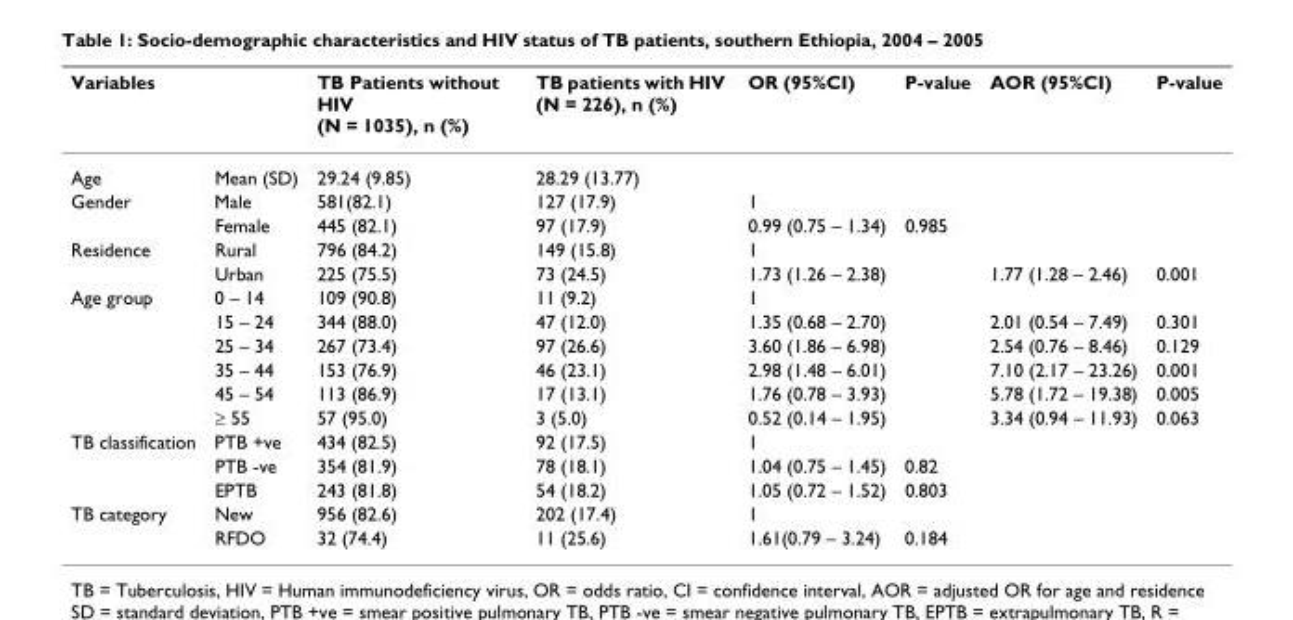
<table><thead><tr><td>Variables</td><td></td><td>TB Patients without HIV (N = 1035), n (%)</td><td>TB patients with HIV (N = 226), n (%)</td><td>OR (95%CI)</td><td>P-value</td><td>AOR (95%CI)</td><td>P-value</td></tr></thead><tbody><tr><td>Age</td><td>Mean (SD)</td><td>29.24 (9.85)</td><td>28.29 (13.77)</td><td></td><td></td><td></td><td></td></tr><tr><td rowspan="2">Gender</td><td>Male</td><td>581(82.1)</td><td>127 (17.9)</td><td>1</td><td></td><td></td><td></td></tr><tr><td>Female</td><td>445 (82.1)</td><td>97 (17.9)</td><td>0.99 (0.75 – 1.34)</td><td>0.985</td><td></td><td></td></tr><tr><td rowspan="2">Residence</td><td>Rural</td><td>796 (84.2)</td><td>149 (15.8)</td><td>1</td><td></td><td></td><td></td></tr><tr><td>Urban</td><td>225 (75.5)</td><td>73 (24.5)</td><td>1.73 (1.26 – 2.38)</td><td></td><td>1.77 (1.28 – 2.46)</td><td>0.001</td></tr><tr><td rowspan="6">Age group</td><td>0 – 14</td><td>109 (90.8)</td><td>11 (9.2)</td><td>1</td><td></td><td></td><td></td></tr><tr><td>15 – 24</td><td>344 (88.0)</td><td>47 (12.0)</td><td>1.35 (0.68 – 2.70)</td><td></td><td>2.01 (0.54 – 7.49)</td><td>0.301</td></tr><tr><td>25 – 34</td><td>267 (73.4)</td><td>97 (26.6)</td><td>3.60 (1.86 – 6.98)</td><td></td><td>2.54 (0.76 – 8.46)</td><td>0.129</td></tr><tr><td>35 – 44</td><td>153 (76.9)</td><td>46 (23.1)</td><td>2.98 (1.48 – 6.01)</td><td></td><td>7.10 (2.17 – 23.26)</td><td>0.001</td></tr><tr><td>45 – 54</td><td>113 (86.9)</td><td>17 (13.1)</td><td>1.76 (0.78 – 3.93)</td><td></td><td>5.78 (1.72 – 19.38)</td><td>0.005</td></tr><tr><td>≥ 55</td><td>57 (95.0)</td><td>3 (5.0)</td><td>0.52 (0.14 – 1.95)</td><td></td><td>3.34 (0.94 – 11.93)</td><td>0.063</td></tr><tr><td rowspan="3">TB classification</td><td>PTB +ve</td><td>434 (82.5)</td><td>92 (17.5)</td><td>1</td><td></td><td></td><td></td></tr><tr><td>PTB -ve</td><td>354 (81.9)</td><td>78 (18.1)</td><td>1.04 (0.75 – 1.45)</td><td>0.82</td><td></td><td></td></tr><tr><td>EPTB</td><td>243 (81.8)</td><td>54 (18.2)</td><td>1.05 (0.72 – 1.52)</td><td>0.803</td><td></td><td></td></tr><tr><td rowspan="2">TB category</td><td>New</td><td>956 (82.6)</td><td>202 (17.4)</td><td>1</td><td></td><td></td><td></td></tr><tr><td>RFDO</td><td>32 (74.4)</td><td>11 (25.6)</td><td>1.61(0.79 – 3.24)</td><td>0.184</td><td></td><td></td></tr></tbody></table>